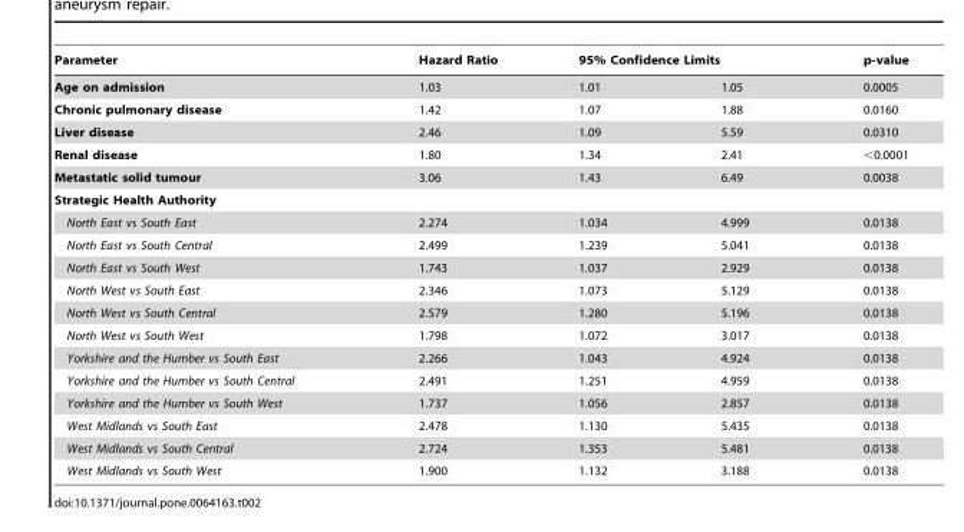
<table><thead><tr><td rowspan="2">Parameter Age on admission</td><td rowspan="2">Hazard Ratio 1.03</td><td colspan="2">95% Confidence Limits</td><td rowspan="2">p-value 0.0005</td></tr><tr><td>1.01</td><td>1.05</td></tr></thead><tbody><tr><td>Chronic pulmonary disease</td><td>1.42</td><td>1.07</td><td>1.88</td><td>0.0160</td></tr><tr><td>Liver disease</td><td>2.46</td><td>1.09</td><td>5.59</td><td>0.0310</td></tr><tr><td>Renal disease</td><td>1.80</td><td>1.34</td><td>2.41</td><td>&lt;0.0001</td></tr><tr><td>Metastatic solid tumour</td><td>3.06</td><td>1.43</td><td>6.49</td><td>0.0038</td></tr><tr><td colspan="5">Strategic Health Authority</td></tr><tr><td>North East vs South East</td><td>2.274</td><td>1.034</td><td>4.999</td><td>0.0138</td></tr><tr><td>North East vs South Central</td><td>2.499</td><td>1.239</td><td>5.041</td><td>0.0138</td></tr><tr><td>North East vs South West</td><td>1.743</td><td>1.037</td><td>2.929</td><td>0.0138</td></tr><tr><td>North West vs South East</td><td>2.346</td><td>1.073</td><td>5.129</td><td>0.0138</td></tr><tr><td>North West vs South Central</td><td>2.579</td><td>1.280</td><td>5.196</td><td>0.0138</td></tr><tr><td>North West vs South West</td><td>1.798</td><td>1.072</td><td>3.017</td><td>0.0138</td></tr><tr><td>Yorkshire and the Humber vs South East</td><td>2.266</td><td>1.043</td><td>4.924</td><td>0.0138</td></tr><tr><td>Yorkshire and the Humber vs South Central</td><td>2.491</td><td>1.251</td><td>4.959</td><td>0.0138</td></tr><tr><td>Yorkshire and the Humber vs South West</td><td>1.737</td><td>1.056</td><td>2.857</td><td>0.0138</td></tr><tr><td>West Midlands vs South East</td><td>2.478</td><td>1.130</td><td>5.435</td><td>0.0138</td></tr><tr><td>West Midlands vs South Central</td><td>2.724</td><td>1.353</td><td>5.481</td><td>0.0138</td></tr><tr><td>West Midlands vs South West</td><td>1.900</td><td>1.132</td><td>3.188</td><td>0.0138</td></tr></tbody></table>